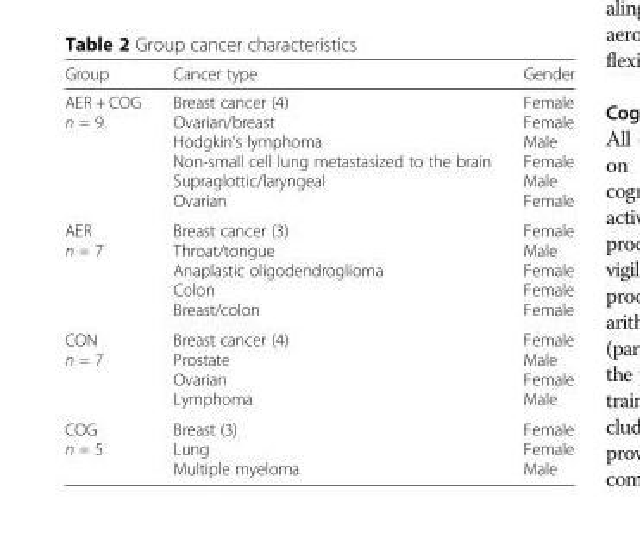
<table><thead><tr><td>Group</td><td>Cancer type</td><td>Gender</td></tr></thead><tbody><tr><td>AER + COG n = 9</td><td>Breast cancer (4) Ovarian/breast Hodgkin’s lymphoma Non-small cell lung metastasized to the brain Supraglottic/laryngeal Ovarian</td><td>Female Female Male Female Male Female</td></tr><tr><td>AER n = 7</td><td>Breast cancer (3) Throat/tongue Anaplastic oligodendroglioma Colon Breast/colon</td><td>Female Male Female Female Female</td></tr><tr><td>CON n = 7</td><td>Breast cancer (4) Prostate Ovarian Lymphoma</td><td>Female Male Female Male</td></tr><tr><td>COG n = 5</td><td>Breast (3) Lung Multiple myeloma</td><td>Female Female Male</td></tr></tbody></table>